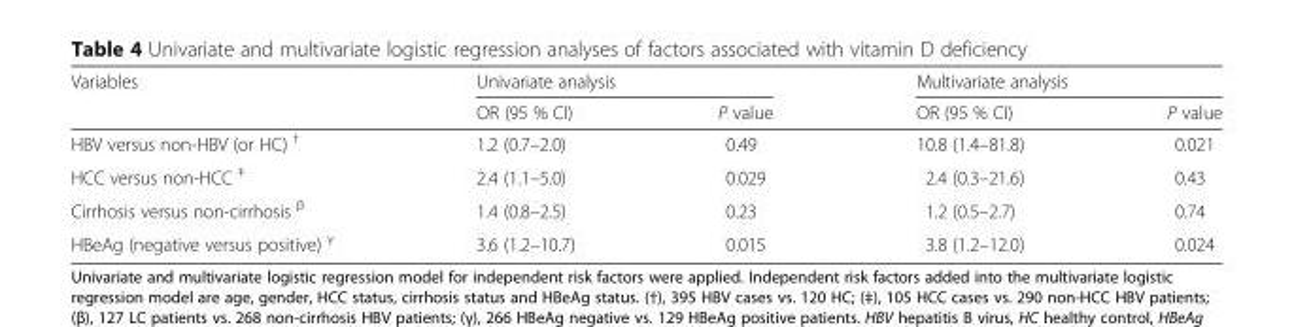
<table><thead><tr><td rowspan="2">Variables</td><td colspan="2">Univariate analysis</td><td colspan="2">Multivariate analysis</td></tr><tr><td>OR (95 % CI)</td><td>P value</td><td>OR (95 % CI)</td><td>P value</td></tr></thead><tbody><tr><td>HBV versus non-HBV (or HC) <sup>†</sup></td><td>1.2 (0.7–2.0)</td><td>0.49</td><td>10.8 (1.4–81.8)</td><td>0.021</td></tr><tr><td>HCC versus non-HCC <sup>‡</sup></td><td>2.4 (1.1–5.0)</td><td>0.029</td><td>2.4 (0.3–21.6)</td><td>0.43</td></tr><tr><td>Cirrhosis versus non-cirrhosis <sup>β</sup></td><td>1.4 (0.8–2.5)</td><td>0.23</td><td>1.2 (0.5–2.7)</td><td>0.74</td></tr><tr><td>HBeAg (negative versus positive) <sup>γ</sup></td><td>3.6 (1.2–10.7)</td><td>0.015</td><td>3.8 (1.2–12.0)</td><td>0.024</td></tr></tbody></table>